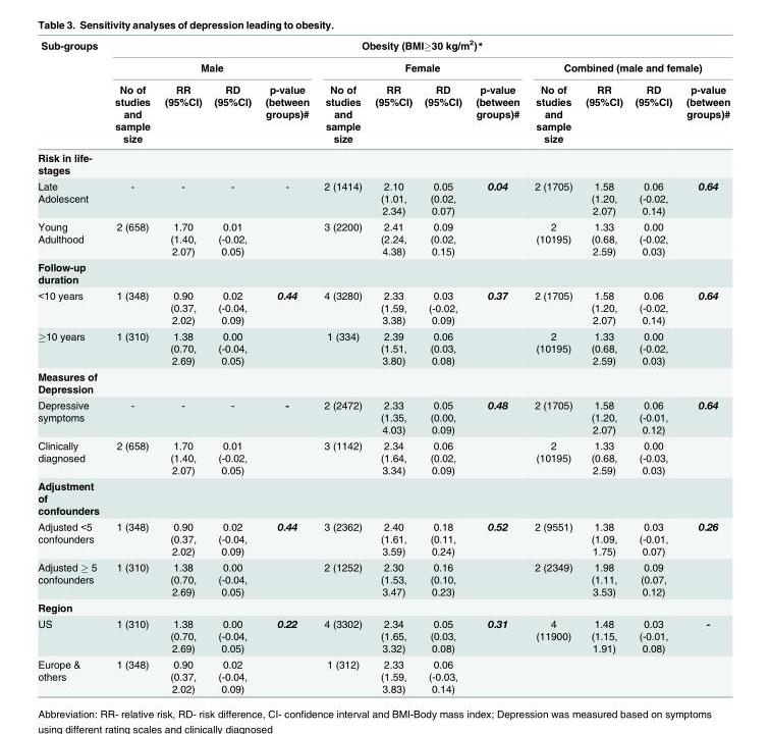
<table><thead><tr><td rowspan="3">Sub-groups</td><td colspan="12">Obesity (BMI≥30 kg/m<sup>2</sup>)*</td></tr><tr><td colspan="4">Male</td><td colspan="4">Female</td><td colspan="4">Combined (male and female)</td></tr><tr><td>No of studies and sample size</td><td>RR (95%CI)</td><td>RD (95%CI)</td><td>p-value (between groups)#</td><td>No of studies and sample size</td><td>RR (95%CI)</td><td>RD (95%CI)</td><td>p-value (between groups)#</td><td>No of studies and sample size</td><td>RR (95%CI)</td><td>RD (95%CI)</td><td>p-value (between groups)#</td></tr></thead><tbody><tr><td colspan="13">Risk in life- stages</td></tr><tr><td>Late Adolescent</td><td>-</td><td>-</td><td>-</td><td>-</td><td>2 (1414)</td><td>2.10 (1.01, 2.34)</td><td>0.05 (0.02, 0.07)</td><td>0.04</td><td>2 (1705)</td><td>1.58 (1.20, 2.07)</td><td>0.06 (-0.02, 0.14)</td><td>0.64</td></tr><tr><td>Young Adulthood</td><td>2 (658)</td><td>1.70 (1.40, 2.07)</td><td>0.01 (-0.02, 0.05)</td><td></td><td>3 (2200)</td><td>2.41 (2.24, 4.38)</td><td>0.09 (0.02, 0.15)</td><td></td><td>2 (10195)</td><td>1.33 (0.68, 2.59)</td><td>0.00 (-0.02, 0.03)</td><td></td></tr><tr><td colspan="13">Follow-up duration</td></tr><tr><td>&lt;10 years</td><td>1 (348)</td><td>0.90 (0.37, 2.02)</td><td>0.02 (-0.04, 0.09)</td><td>0.44</td><td>4 (3280)</td><td>2.33 (1.59, 3.38)</td><td>0.03 (-0.02, 0.09)</td><td>0.37</td><td>2 (1705)</td><td>1.58 (1.20, 2.07)</td><td>0.06 (-0.02, 0.14)</td><td>0.64</td></tr><tr><td>≥10 years</td><td>1 (310)</td><td>1.38 (0.70, 2.69)</td><td>0.00 (-0.04, 0.05)</td><td></td><td>1 (334)</td><td>2.39 (1.51, 3.80)</td><td>0.06 (0.03, 0.08)</td><td></td><td>2 (10195)</td><td>1.33 (0.68, 2.59)</td><td>0.00 (-0.02, 0.03)</td><td></td></tr><tr><td colspan="13">Measures of Depression</td></tr><tr><td>Depressive symptoms</td><td>-</td><td>-</td><td>-</td><td>-</td><td>2 (2472)</td><td>2.33 (1.35, 4.03)</td><td>0.05 (0.00, 0.09)</td><td>0.48</td><td>2 (1705)</td><td>1.58 (1.20, 2.07)</td><td>0.06 (-0.01, 0.12)</td><td>0.64</td></tr><tr><td>Clinically diagnosed</td><td>2 (658)</td><td>1.70 (1.40, 2.07)</td><td>0.01 (-0.02, 0.05)</td><td></td><td>3 (1142)</td><td>2.34 (1.64, 3.34)</td><td>0.06 (0.02, 0.09)</td><td></td><td>2 (10195)</td><td>1.33 (0.68, 2.59)</td><td>0.00 (-0.03, 0.03)</td><td></td></tr><tr><td colspan="13">Adjustment of confounders</td></tr><tr><td>Adjusted &lt;5 confounders</td><td>1 (348)</td><td>0.90 (0.37, 2.02)</td><td>0.02 (-0.04, 0.09)</td><td>0.44</td><td>3 (2362)</td><td>2.40 (1.61, 3.59)</td><td>0.18 (0.11, 0.24)</td><td>0.52</td><td>2 (9551)</td><td>1.38 (1.09, 1.75)</td><td>0.03 (-0.01, 0.07)</td><td>0.26</td></tr><tr><td>Adjusted ≥ 5 confounders</td><td>1 (310)</td><td>1.38 (0.70, 2.69)</td><td>0.00 (-0.04, 0.05)</td><td></td><td>2 (1252)</td><td>2.30 (1.53, 3.47)</td><td>0.16 (0.10, 0.23)</td><td></td><td>2 (2349)</td><td>1.98 (1.11, 3.53)</td><td>0.09 (0.07, 0.12)</td><td></td></tr><tr><td colspan="13">Region</td></tr><tr><td>US</td><td>1 (310)</td><td>1.38 (0.70, 2.69)</td><td>0.00 (-0.04, 0.05)</td><td>0.22</td><td>4 (3302)</td><td>2.34 (1.65, 3.32)</td><td>0.05 (0.03, 0.08)</td><td>0.31</td><td>4 (11900)</td><td>1.48 (1.15, 1.91)</td><td>0.03 (-0.01, 0.08)</td><td>-</td></tr><tr><td>Europe &amp; others</td><td>1 (348)</td><td>0.90 (0.37, 2.02)</td><td>0.02 (-0.04, 0.09)</td><td></td><td>1 (312)</td><td>2.33 (1.59, 3.83)</td><td>0.06 (-0.03, 0.14)</td><td></td><td></td><td></td><td></td><td></td></tr></tbody></table>